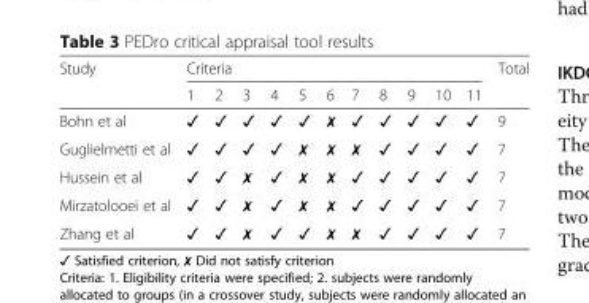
<table><thead><tr><td rowspan="2">Study</td><td colspan="11">Criteria</td><td rowspan="2">Total</td></tr><tr><td>1</td><td>2</td><td>3</td><td>4</td><td>5</td><td>6</td><td>7</td><td>8</td><td>9</td><td>10</td><td>11</td></tr></thead><tbody><tr><td>Bohn et al</td><td>✓</td><td>✓</td><td>✓</td><td>✓</td><td>✓</td><td>✗</td><td>✓</td><td>✓</td><td>✓</td><td>✓</td><td>✓</td><td>9</td></tr><tr><td>Guglielmetti et al</td><td>✓</td><td>✓</td><td>✓</td><td>✓</td><td>✗</td><td>✗</td><td>✗</td><td>✓</td><td>✓</td><td>✓</td><td>✓</td><td>7</td></tr><tr><td>Hussein et al</td><td>✓</td><td>✓</td><td>✗</td><td>✓</td><td>✗</td><td>✗</td><td>✓</td><td>✓</td><td>✓</td><td>✓</td><td>✓</td><td>7</td></tr><tr><td>Mirzatolooei et al</td><td>✓</td><td>✓</td><td>✗</td><td>✓</td><td>✗</td><td>✗</td><td>✓</td><td>✓</td><td>✓</td><td>✓</td><td>✓</td><td>7</td></tr><tr><td>Zhang et al</td><td>✓</td><td>✓</td><td>✗</td><td>✓</td><td>✓</td><td>✗</td><td>✗</td><td>✓</td><td>✓</td><td>✓</td><td>✓</td><td>7</td></tr></tbody></table>